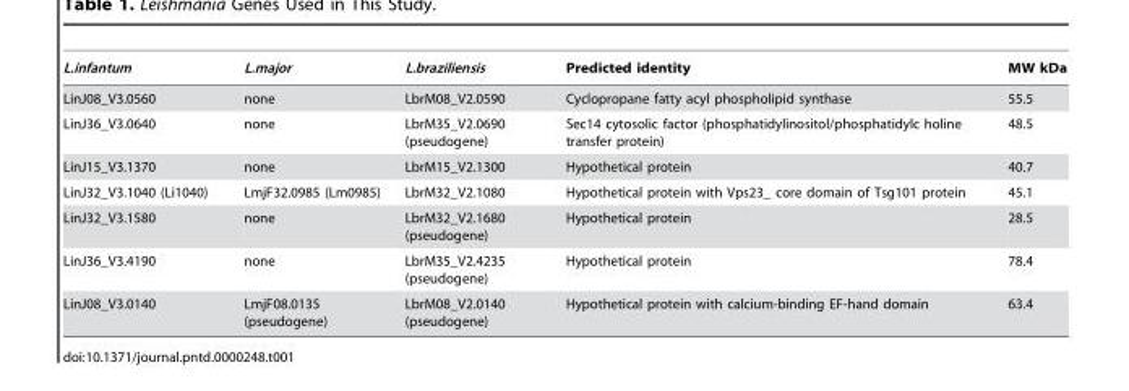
<table><thead><tr><td>L.infantum</td><td>L.major</td><td>L.braziliensis</td><td>Predicted identity</td><td>MW kDa</td></tr></thead><tbody><tr><td>LinJ08_V3.0560</td><td>none</td><td>LbrM08_V2.0590</td><td>Cyclopropane fatty acyl phospholipid synthase</td><td>55.5</td></tr><tr><td>LinJ36_V3.0640</td><td>none</td><td>LbrM35_V2.0690 (pseudogene)</td><td>Sec14 cytosolic factor (phosphatidylinositol/phosphatidylc holine transfer protein)</td><td>48.5</td></tr><tr><td>LinJ15_V3.1370</td><td>none</td><td>LbrM15_V2.1300</td><td>Hypothetical protein</td><td>40.7</td></tr><tr><td>LinJ32_V3.1040 (Li1040)</td><td>LmjF32.0985 (Lm0985)</td><td>LbrM32_V2.1080</td><td>Hypothetical protein with Vps23_ core domain of Tsg101 protein</td><td>45.1</td></tr><tr><td>LinJ32_V3.1580</td><td>none</td><td>LbrM32_V2.1680 (pseudogene)</td><td>Hypothetical protein</td><td>28.5</td></tr><tr><td>LinJ36_V3.4190</td><td>none</td><td>LbrM35_V2.4235 (pseudogene)</td><td>Hypothetical protein</td><td>78.4</td></tr><tr><td>LinJ08_V3.0140</td><td>LmjF08.0135 (pseudogene)</td><td>LbrM08_V2.0140 (pseudogene)</td><td>Hypothetical protein with calcium-binding EF-hand domain</td><td>63.4</td></tr></tbody></table>